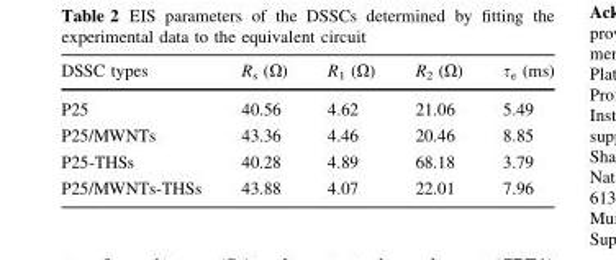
<table><thead><tr><td>DSSC types</td><td>R<sub>s</sub> (Ω)</td><td>R<sub>1</sub> (Ω)</td><td>R<sub>2</sub> (Ω)</td><td>τ<sub>e</sub> (ms)</td></tr></thead><tbody><tr><td>P25</td><td>40.56</td><td>4.62</td><td>21.06</td><td>5.49</td></tr><tr><td>P25/MWNTs</td><td>43.36</td><td>4.46</td><td>20.46</td><td>8.85</td></tr><tr><td>P25-THSs</td><td>40.28</td><td>4.89</td><td>68.18</td><td>3.79</td></tr><tr><td>P25/MWNTs-THSs</td><td>43.88</td><td>4.07</td><td>22.01</td><td>7.96</td></tr></tbody></table>